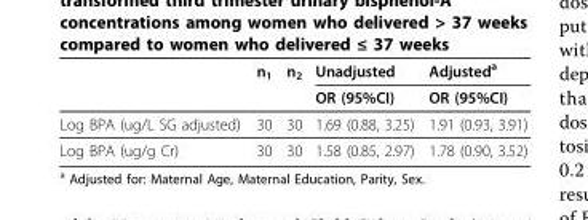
<table><thead><tr><td rowspan="2"></td><td rowspan="2">n<sub>1</sub></td><td rowspan="2">n<sub>2</sub></td><td rowspan="2">Unadjusted OR (95%CI)</td><td rowspan="2">Adjusted<sup>a</sup> OR (95%CI)</td></tr><tr></tr></thead><tbody><tr><td>Log BPA (ug/L SG adjusted)</td><td>30</td><td>30</td><td>1.69 (0.88, 3.25)</td><td>1.91 (0.93, 3.91)</td></tr><tr><td>Log BPA (ug/g Cr)</td><td>30</td><td>30</td><td>1.58 (0.85, 2.97)</td><td>1.78 (0.90, 3.52)</td></tr></tbody></table>